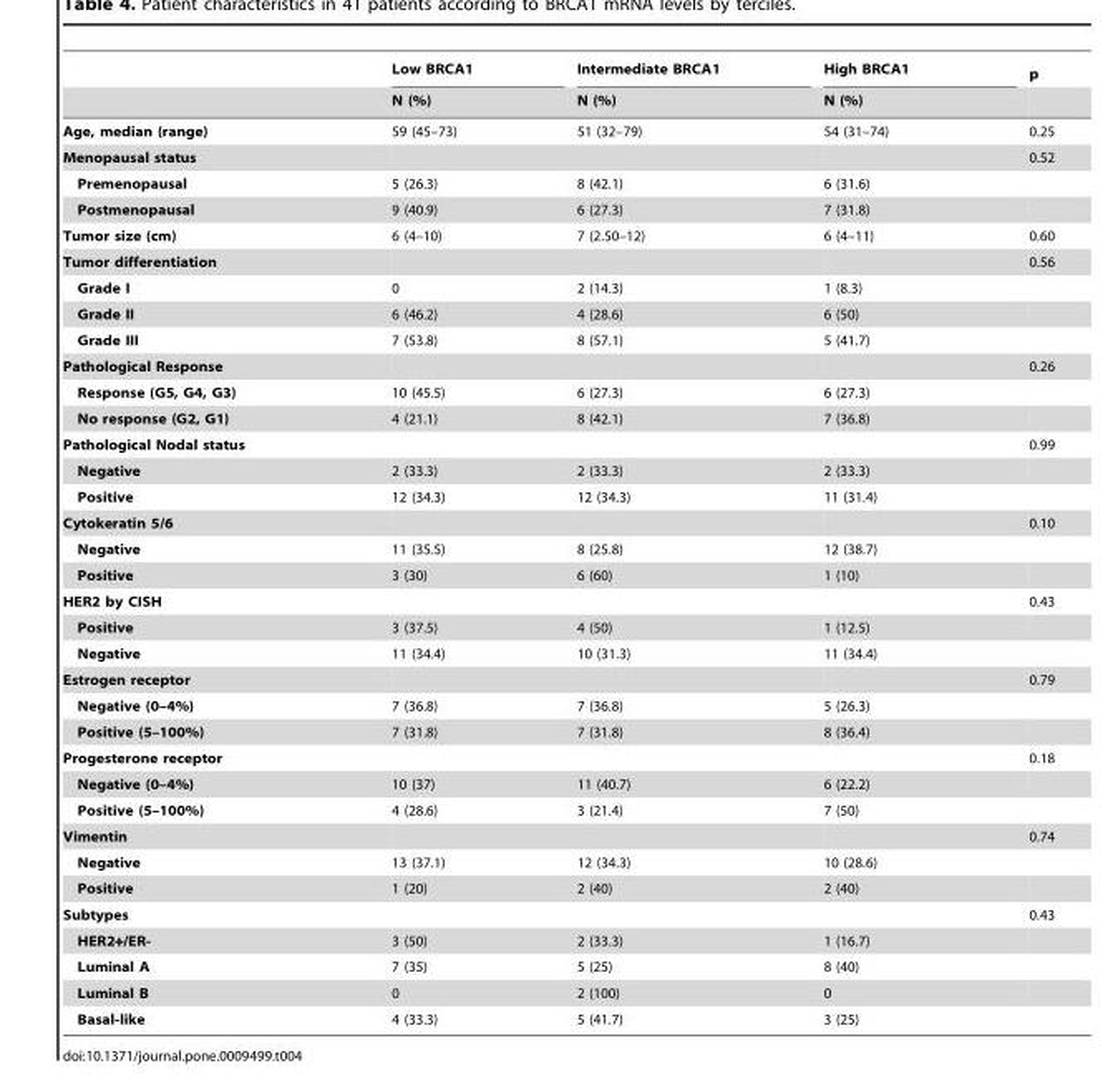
<table><thead><tr><td rowspan="2"></td><td rowspan="2">Low BRCA1 N (%)</td><td rowspan="2">Intermediate BRCA1 N (%)</td><td rowspan="2">High BRCA1 N (%)</td><td rowspan="2">p</td></tr><tr></tr></thead><tbody><tr><td>Age, median (range)</td><td>59 (45–73)</td><td>51 (32–79)</td><td>54 (31–74)</td><td>0.25</td></tr><tr><td>Menopausal status</td><td></td><td></td><td></td><td>0.52</td></tr><tr><td>Premenopausal</td><td>5 (26.3)</td><td>8 (42.1)</td><td>6 (31.6)</td><td></td></tr><tr><td>Postmenopausal</td><td>9 (40.9)</td><td>6 (27.3)</td><td>7 (31.8)</td><td></td></tr><tr><td>Tumor size (cm)</td><td>6 (4–10)</td><td>7 (2.50–12)</td><td>6 (4–11)</td><td>0.60</td></tr><tr><td>Tumor differentiation</td><td></td><td></td><td></td><td>0.56</td></tr><tr><td>Grade I</td><td>0</td><td>2 (14.3)</td><td>1 (8.3)</td><td></td></tr><tr><td>Grade II</td><td>6 (46.2)</td><td>4 (28.6)</td><td>6 (50)</td><td></td></tr><tr><td>Grade III</td><td>7 (53.8)</td><td>8 (57.1)</td><td>5 (41.7)</td><td></td></tr><tr><td>Pathological Response</td><td></td><td></td><td></td><td>0.26</td></tr><tr><td>Response (G5, G4, G3)</td><td>10 (45.5)</td><td>6 (27.3)</td><td>6 (27.3)</td><td></td></tr><tr><td>No response (G2, G1)</td><td>4 (21.1)</td><td>8 (42.1)</td><td>7 (36.8)</td><td></td></tr><tr><td>Pathological Nodal status</td><td></td><td></td><td></td><td>0.99</td></tr><tr><td>Negative</td><td>2 (33.3)</td><td>2 (33.3)</td><td>2 (33.3)</td><td></td></tr><tr><td>Positive</td><td>12 (34.3)</td><td>12 (34.3)</td><td>11 (31.4)</td><td></td></tr><tr><td>Cytokeratin 5/6</td><td></td><td></td><td></td><td>0.10</td></tr><tr><td>Negative</td><td>11 (35.5)</td><td>8 (25.8)</td><td>12 (38.7)</td><td></td></tr><tr><td>Positive</td><td>3 (30)</td><td>6 (60)</td><td>1 (10)</td><td></td></tr><tr><td>HER2 by CISH</td><td></td><td></td><td></td><td>0.43</td></tr><tr><td>Positive</td><td>3 (37.5)</td><td>4 (50)</td><td>1 (12.5)</td><td></td></tr><tr><td>Negative</td><td>11 (34.4)</td><td>10 (31.3)</td><td>11 (34.4)</td><td></td></tr><tr><td>Estrogen receptor</td><td></td><td></td><td></td><td>0.79</td></tr><tr><td>Negative (0–4%)</td><td>7 (36.8)</td><td>7 (36.8)</td><td>5 (26.3)</td><td></td></tr><tr><td>Positive (5–100%)</td><td>7 (31.8)</td><td>7 (31.8)</td><td>8 (36.4)</td><td></td></tr><tr><td>Progesterone receptor</td><td></td><td></td><td></td><td>0.18</td></tr><tr><td>Negative (0–4%)</td><td>10 (37)</td><td>11 (40.7)</td><td>6 (22.2)</td><td></td></tr><tr><td>Positive (5–100%)</td><td>4 (28.6)</td><td>3 (21.4)</td><td>7 (50)</td><td></td></tr><tr><td>Vimentin</td><td></td><td></td><td></td><td>0.74</td></tr><tr><td>Negative</td><td>13 (37.1)</td><td>12 (34.3)</td><td>10 (28.6)</td><td></td></tr><tr><td>Positive</td><td>1 (20)</td><td>2 (40)</td><td>2 (40)</td><td></td></tr><tr><td>Subtypes</td><td></td><td></td><td></td><td>0.43</td></tr><tr><td>HER2+/ER-</td><td>3 (50)</td><td>2 (33.3)</td><td>1 (16.7)</td><td></td></tr><tr><td>Luminal A</td><td>7 (35)</td><td>5 (25)</td><td>8 (40)</td><td></td></tr><tr><td>Luminal B</td><td>0</td><td>2 (100)</td><td>0</td><td></td></tr><tr><td>Basal-like</td><td>4 (33.3)</td><td>5 (41.7)</td><td>3 (25)</td><td></td></tr></tbody></table>